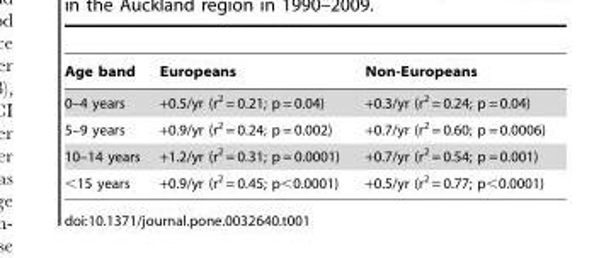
<table><thead><tr><td>Age band</td><td>Europeans</td><td>Non-Europeans</td></tr></thead><tbody><tr><td>0–4 years</td><td>+0.5/yr (r<sup>2</sup> = 0.21; p = 0.04)</td><td>+0.3/yr (r<sup>2</sup> = 0.24; p = 0.04)</td></tr><tr><td>5–9 years</td><td>+0.9/yr (r<sup>2</sup> = 0.24; p = 0.002)</td><td>+0.7/yr (r<sup>2</sup> = 0.60; p = 0.0006)</td></tr><tr><td>10–14 years</td><td>+1.2/yr (r<sup>2</sup> = 0.31; p = 0.0001)</td><td>+0.7/yr (r<sup>2</sup> = 0.54; p = 0.001)</td></tr><tr><td>&lt;15 years</td><td>+0.9/yr (r<sup>2</sup> = 0.45; p&lt;0.0001)</td><td>+0.5/yr (r<sup>2</sup> = 0.77; p&lt;0.0001)</td></tr></tbody></table>